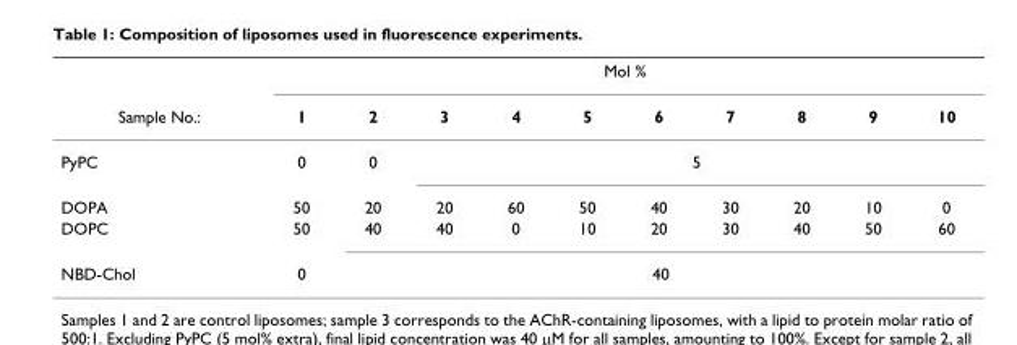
<table><thead><tr><td rowspan="2">Sample No.:</td><td colspan="10">Mol %</td></tr><tr><td>1</td><td>2</td><td>3</td><td>4</td><td>5</td><td>6</td><td>7</td><td>8</td><td>9</td><td>10</td></tr></thead><tbody><tr><td>PyPC</td><td>0</td><td>0</td><td colspan="8">5</td></tr><tr><td>DOPA</td><td>50</td><td>20</td><td>20</td><td>60</td><td>50</td><td>40</td><td>30</td><td>20</td><td>10</td><td>0</td></tr><tr><td>DOPC</td><td>50</td><td>40</td><td>40</td><td>0</td><td>10</td><td>20</td><td>30</td><td>40</td><td>50</td><td>60</td></tr><tr><td>NBD-Chol</td><td>0</td><td colspan="9">40</td></tr></tbody></table>